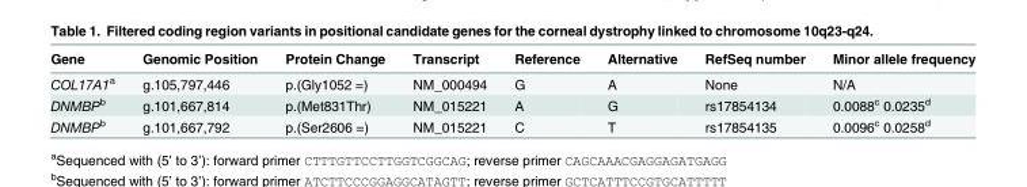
<table><thead><tr><td>Gene</td><td>Genomic Position</td><td>Protein Change</td><td>Transcript</td><td>Reference</td><td>Alternative</td><td>RefSeq number</td><td>Minor allele frequency</td></tr></thead><tbody><tr><td>COL17A1<sup>a</sup></td><td>g.105,797,446</td><td>p.(Gly1052 =)</td><td>NM_000494</td><td>G</td><td>A</td><td>None</td><td>N/A</td></tr><tr><td>DNMBP<sup>b</sup></td><td>g.101,667,814</td><td>p.(Met831Thr)</td><td>NM_015221</td><td>A</td><td>G</td><td>rs17854134</td><td>0.0088<sup>c</sup> 0.0235<sup>d</sup></td></tr><tr><td>DNMBP<sup>b</sup></td><td>g.101,667,792</td><td>p.(Ser2606 =)</td><td>NM_015221</td><td>C</td><td>T</td><td>rs17854135</td><td>0.0096<sup>c</sup> 0.0258<sup>d</sup></td></tr></tbody></table>